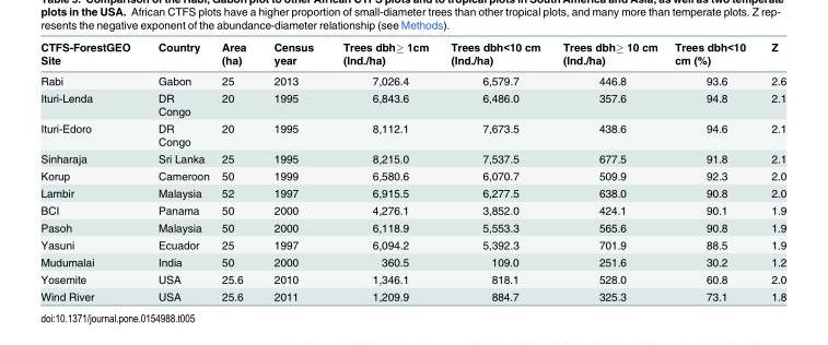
<table><thead><tr><td>CTFS-ForestGEO Site</td><td>Country</td><td>Area (ha)</td><td>Census year</td><td>Trees dbh≥ 1cm (Ind./ha)</td><td>Trees dbh&lt;10 cm (Ind./ha)</td><td>Trees dbh≥ 10 cm (Ind./ha)</td><td>Trees dbh&lt;10 cm (%)</td><td>Z</td></tr></thead><tbody><tr><td>Rabi</td><td>Gabon</td><td>25</td><td>2013</td><td>7,026.4</td><td>6,579.7</td><td>446.8</td><td>93.6</td><td>2.6</td></tr><tr><td>Ituri-Lenda</td><td>DR Congo</td><td>20</td><td>1995</td><td>6,843.6</td><td>6,486.0</td><td>357.6</td><td>94.8</td><td>2.1</td></tr><tr><td>Ituri-Edoro</td><td>DR Congo</td><td>20</td><td>1995</td><td>8,112.1</td><td>7,673.5</td><td>438.6</td><td>94.6</td><td>2.1</td></tr><tr><td>Sinharaja</td><td>Sri Lanka</td><td>25</td><td>1995</td><td>8,215.0</td><td>7,537.5</td><td>677.5</td><td>91.8</td><td>2.1</td></tr><tr><td>Korup</td><td>Cameroon</td><td>50</td><td>1999</td><td>6,580.6</td><td>6,070.7</td><td>509.9</td><td>92.3</td><td>2.0</td></tr><tr><td>Lambir</td><td>Malaysia</td><td>52</td><td>1997</td><td>6,915.5</td><td>6,277.5</td><td>638.0</td><td>90.8</td><td>2.0</td></tr><tr><td>BCI</td><td>Panama</td><td>50</td><td>2000</td><td>4,276.1</td><td>3,852.0</td><td>424.1</td><td>90.1</td><td>1.9</td></tr><tr><td>Pasoh</td><td>Malaysia</td><td>50</td><td>2000</td><td>6,118.9</td><td>5,553.3</td><td>565.6</td><td>90.8</td><td>1.9</td></tr><tr><td>Yasuni</td><td>Ecuador</td><td>25</td><td>1997</td><td>6,094.2</td><td>5,392.3</td><td>701.9</td><td>88.5</td><td>1.9</td></tr><tr><td>Mudumalai</td><td>India</td><td>50</td><td>2000</td><td>360.5</td><td>109.0</td><td>251.6</td><td>30.2</td><td>1.2</td></tr><tr><td>Yosemite</td><td>USA</td><td>25.6</td><td>2010</td><td>1,346.1</td><td>818.1</td><td>528.0</td><td>60.8</td><td>2.0</td></tr><tr><td>Wind River</td><td>USA</td><td>25.6</td><td>2011</td><td>1,209.9</td><td>884.7</td><td>325.3</td><td>73.1</td><td>1.8</td></tr></tbody></table>